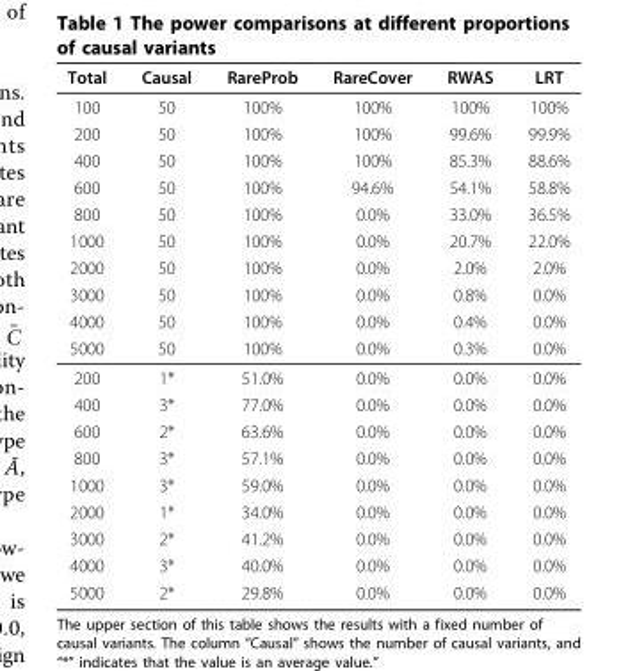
<table><thead><tr><td>Total</td><td>Causal</td><td>RareProb</td><td>RareCover</td><td>RWAS</td><td>LRT</td></tr></thead><tbody><tr><td>100</td><td>50</td><td>100%</td><td>100%</td><td>100%</td><td>100%</td></tr><tr><td>200</td><td>50</td><td>100%</td><td>100%</td><td>99.6%</td><td>99.9%</td></tr><tr><td>400</td><td>50</td><td>100%</td><td>100%</td><td>85.3%</td><td>88.6%</td></tr><tr><td>600</td><td>50</td><td>100%</td><td>94.6%</td><td>54.1%</td><td>58.8%</td></tr><tr><td>800</td><td>50</td><td>100%</td><td>0.0%</td><td>33.0%</td><td>36.5%</td></tr><tr><td>1000</td><td>50</td><td>100%</td><td>0.0%</td><td>20.7%</td><td>22.0%</td></tr><tr><td>2000</td><td>50</td><td>100%</td><td>0.0%</td><td>2.0%</td><td>2.0%</td></tr><tr><td>3000</td><td>50</td><td>100%</td><td>0.0%</td><td>0.8%</td><td>0.0%</td></tr><tr><td>4000</td><td>50</td><td>100%</td><td>0.0%</td><td>0.4%</td><td>0.0%</td></tr><tr><td>5000</td><td>50</td><td>100%</td><td>0.0%</td><td>0.3%</td><td>0.0%</td></tr><tr><td>200</td><td>1*</td><td>51.0%</td><td>0.0%</td><td>0.0%</td><td>0.0%</td></tr><tr><td>400</td><td>3*</td><td>77.0%</td><td>0.0%</td><td>0.0%</td><td>0.0%</td></tr><tr><td>600</td><td>2*</td><td>63.6%</td><td>0.0%</td><td>0.0%</td><td>0.0%</td></tr><tr><td>800</td><td>3*</td><td>57.1%</td><td>0.0%</td><td>0.0%</td><td>0.0%</td></tr><tr><td>1000</td><td>3*</td><td>59.0%</td><td>0.0%</td><td>0.0%</td><td>0.0%</td></tr><tr><td>2000</td><td>1*</td><td>34.0%</td><td>0.0%</td><td>0.0%</td><td>0.0%</td></tr><tr><td>3000</td><td>2*</td><td>41.2%</td><td>0.0%</td><td>0.0%</td><td>0.0%</td></tr><tr><td>4000</td><td>3*</td><td>40.0%</td><td>0.0%</td><td>0.0%</td><td>0.0%</td></tr><tr><td>5000</td><td>2*</td><td>29.8%</td><td>0.0%</td><td>0.0%</td><td>0.0%</td></tr></tbody></table>